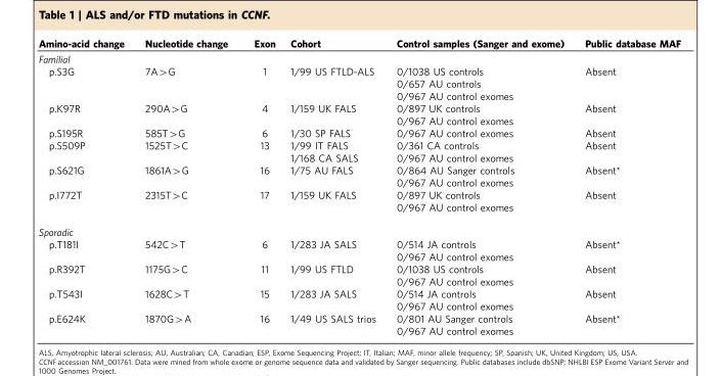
<table><thead><tr><td>Amino-acid change</td><td>Nucleotide change</td><td>Exon</td><td>Cohort</td><td>Control samples (Sanger and exome)</td><td>Public database MAF</td></tr></thead><tbody><tr><td colspan="6">Familial</td></tr><tr><td>p.S3G</td><td>7A&gt;G</td><td>1</td><td>1/99 US FTLD-ALS</td><td>0/1038 US controls 0/657 AU controls 0/967 AU control exomes</td><td>Absent</td></tr><tr><td>p.K97R</td><td>290A&gt;G</td><td>4</td><td>1/159 UK FALS</td><td>0/897 UK controls 0/967 AU control exomes</td><td>Absent</td></tr><tr><td>p.S195R</td><td>585T&gt;G</td><td>6</td><td>1/30 SP FALS</td><td>0/967 AU control exomes</td><td>Absent</td></tr><tr><td>p.S509P</td><td>1525T&gt;C</td><td>13</td><td>1/99 IT FALS 1/168 CA SALS</td><td>0/361 CA controls 0/967 AU control exomes</td><td>Absent</td></tr><tr><td>p.S621G</td><td>1861A&gt;G</td><td>16</td><td>1/75 AU FALS</td><td>0/864 AU Sanger controls 0/967 AU control exomes</td><td>Absent*</td></tr><tr><td>p.I772T</td><td>2315T&gt;C</td><td>17</td><td>1/159 UK FALS</td><td>0/897 UK controls 0/967 AU control exomes</td><td>Absent</td></tr><tr><td colspan="6">Sporadic</td></tr><tr><td>p.T181I</td><td>542C&gt;T</td><td>6</td><td>1/283 JA SALS</td><td>0/514 JA controls 0/967 AU control exomes</td><td>Absent*</td></tr><tr><td>p.R392T</td><td>1175G&gt;C</td><td>11</td><td>1/99 US FTLD</td><td>0/1038 US controls 0/967 AU control exomes</td><td>Absent</td></tr><tr><td>p.T543I</td><td>1628C&gt;T</td><td>15</td><td>1/283 JA SALS</td><td>0/514 JA controls 0/967 AU control exomes</td><td>Absent</td></tr><tr><td>p.E624K</td><td>1870G&gt;A</td><td>16</td><td>1/49 US SALS trios</td><td>0/801 AU Sanger controls 0/967 AU control exomes</td><td>Absent*</td></tr></tbody></table>